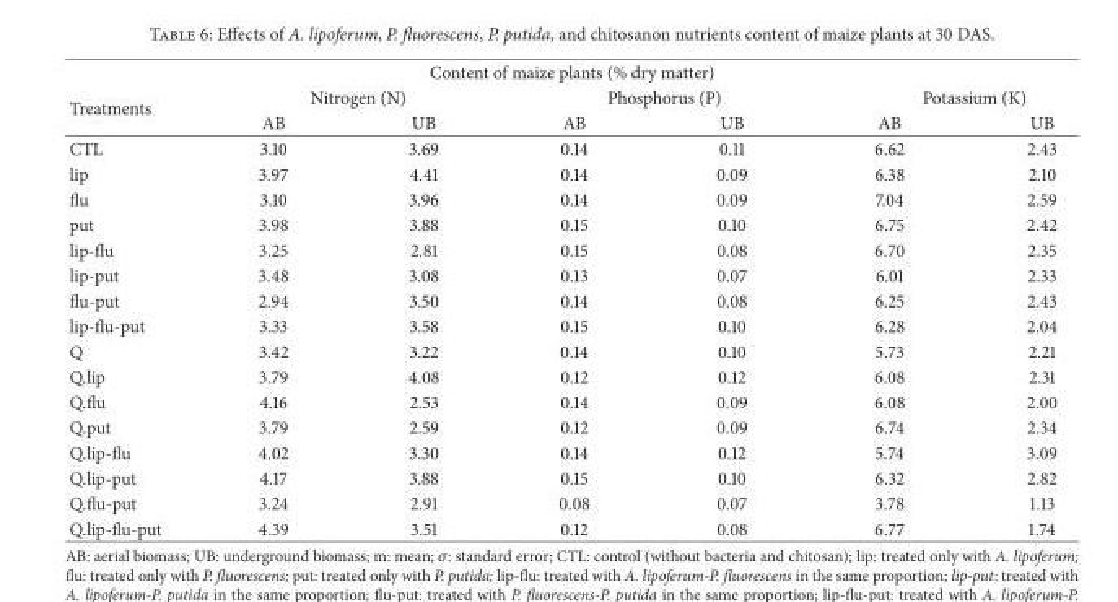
<table><thead><tr><td colspan="7">Content of maize plants (% dry matter)</td></tr><tr><td rowspan="2">Treatments</td><td colspan="2">Nitrogen (N)</td><td colspan="2">Phosphorus (P)</td><td colspan="2">Potassium (K)</td></tr><tr><td>AB</td><td>UB</td><td>AB</td><td>UB</td><td>AB</td><td>UB</td></tr></thead><tbody><tr><td>CTL</td><td>3.10</td><td>3.69</td><td>0.14</td><td>0.11</td><td>6.62</td><td>2.43</td></tr><tr><td>lip</td><td>3.97</td><td>4.41</td><td>0.14</td><td>0.09</td><td>6.38</td><td>2.10</td></tr><tr><td>flu</td><td>3.10</td><td>3.96</td><td>0.14</td><td>0.09</td><td>7.04</td><td>2.59</td></tr><tr><td>put</td><td>3.98</td><td>3.88</td><td>0.15</td><td>0.10</td><td>6.75</td><td>2.42</td></tr><tr><td>lip-flu</td><td>3.25</td><td>2.81</td><td>0.15</td><td>0.08</td><td>6.70</td><td>2.35</td></tr><tr><td>lip-put</td><td>3.48</td><td>3.08</td><td>0.13</td><td>0.07</td><td>6.01</td><td>2.33</td></tr><tr><td>flu-put</td><td>2.94</td><td>3.50</td><td>0.14</td><td>0.08</td><td>6.25</td><td>2.43</td></tr><tr><td>lip-flu-put</td><td>3.33</td><td>3.58</td><td>0.15</td><td>0.10</td><td>6.28</td><td>2.04</td></tr><tr><td>Q</td><td>3.42</td><td>3.22</td><td>0.14</td><td>0.10</td><td>5.73</td><td>2.21</td></tr><tr><td>Q.lip</td><td>3.79</td><td>4.08</td><td>0.12</td><td>0.12</td><td>6.08</td><td>2.31</td></tr><tr><td>Q.flu</td><td>4.16</td><td>2.53</td><td>0.14</td><td>0.09</td><td>6.08</td><td>2.00</td></tr><tr><td>Q.put</td><td>3.79</td><td>2.59</td><td>0.12</td><td>0.09</td><td>6.74</td><td>2.34</td></tr><tr><td>Q.lip-flu</td><td>4.02</td><td>3.30</td><td>0.14</td><td>0.12</td><td>5.74</td><td>3.09</td></tr><tr><td>Q.lip-put</td><td>4.17</td><td>3.88</td><td>0.15</td><td>0.10</td><td>6.32</td><td>2.82</td></tr><tr><td>Q.flu-put</td><td>3.24</td><td>2.91</td><td>0.08</td><td>0.07</td><td>3.78</td><td>1.13</td></tr><tr><td>Q.lip-flu-put</td><td>4.39</td><td>3.51</td><td>0.12</td><td>0.08</td><td>6.77</td><td>1.74</td></tr></tbody></table>